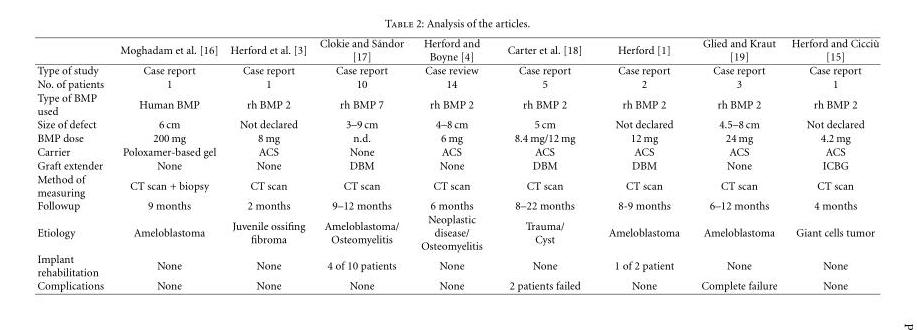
<table><thead><tr><td></td><td>Moghadam et al. [16]</td><td>Herford et al. [3]</td><td>Clokie and S´andor [17]</td><td>Herford and Boyne [4]</td><td>Carter et al. [18]</td><td>Herford [1]</td><td>Glied and Kraut [19]</td><td>Herford and Cicci`u [15]</td></tr></thead><tbody><tr><td>Type of study</td><td>Case report</td><td>Case report</td><td>Case report</td><td>Case review</td><td>Case report</td><td>Case report</td><td>Case report</td><td>Case report</td></tr><tr><td>No. of patients</td><td>1</td><td>1</td><td>10</td><td>14</td><td>5</td><td>2</td><td>3</td><td>1</td></tr><tr><td>Type of BMP used</td><td>Human BMP</td><td>rh BMP 2</td><td>rh BMP 7</td><td>rh BMP 2</td><td>rh BMP 2</td><td>rh BMP 2</td><td>rh BMP 2</td><td>rh BMP 2</td></tr><tr><td>Size of defect</td><td>6 cm</td><td>Not declared</td><td>3–9 cm</td><td>4–8 cm</td><td>5 cm</td><td>Not declared</td><td>4.5–8 cm</td><td>Not declared</td></tr><tr><td>BMP dose</td><td>200 mg</td><td>8 mg</td><td>n.d.</td><td>6 mg</td><td>8.4 mg/12 mg</td><td>12 mg</td><td>24 mg</td><td>4.2 mg</td></tr><tr><td>Carrier</td><td>Poloxamer-based gel</td><td>ACS</td><td>None</td><td>ACS</td><td>ACS</td><td>ACS</td><td>ACS</td><td>ACS</td></tr><tr><td>Graft extender</td><td>None</td><td>None</td><td>DBM</td><td>None</td><td>DBM</td><td>DBM</td><td>None</td><td>ICBG</td></tr><tr><td>Method of measuring</td><td>CT scan + biopsy</td><td>CT scan</td><td>CT scan</td><td>CT scan</td><td>CT scan</td><td>CT scan</td><td>CT scan</td><td>CT scan</td></tr><tr><td>Followup</td><td>9 months</td><td>2 months</td><td>9–12 months</td><td>6 months</td><td>8–22 months</td><td>8-9 months</td><td>6–12 months</td><td>4 months</td></tr><tr><td>Etiology</td><td>Ameloblastoma</td><td>Juvenile ossifing fibroma</td><td>Ameloblastoma/ Osteomyelitis</td><td>Neoplastic disease/ Osteomyelitis</td><td>Trauma/ Cyst</td><td>Ameloblastoma</td><td>Ameloblastoma</td><td>Giant cells tumor</td></tr><tr><td>Implant rehabilitation</td><td>None</td><td>None</td><td>4 of 10 patients</td><td>None</td><td>None</td><td>1 of 2 patient</td><td>None</td><td>None</td></tr><tr><td>Complications</td><td>None</td><td>None</td><td>None</td><td>None</td><td>2 patients failed</td><td>None</td><td>Complete failure</td><td>None</td></tr></tbody></table>